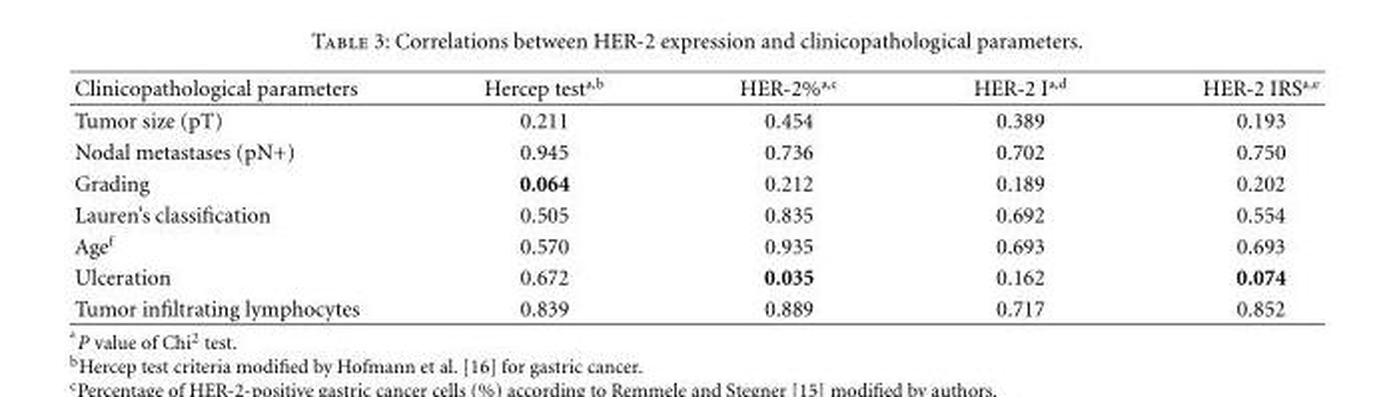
<table><thead><tr><td>Clinicopathological parameters</td><td>Hercep test<sup>a,b</sup></td><td>HER-2%<sup>a,c</sup></td><td>HER-2 I<sup>a,d</sup></td><td>HER-2 IRS<sup>a,e</sup></td></tr></thead><tbody><tr><td>Tumor size (pT)</td><td>0.211</td><td>0.454</td><td>0.389</td><td>0.193</td></tr><tr><td>Nodal metastases (pN+)</td><td>0.945</td><td>0.736</td><td>0.702</td><td>0.750</td></tr><tr><td>Grading</td><td>0.064</td><td>0.212</td><td>0.189</td><td>0.202</td></tr><tr><td>Lauren’s classification</td><td>0.505</td><td>0.835</td><td>0.692</td><td>0.554</td></tr><tr><td>Age<sup>f</sup></td><td>0.570</td><td>0.935</td><td>0.693</td><td>0.693</td></tr><tr><td>Ulceration</td><td>0.672</td><td>0.035</td><td>0.162</td><td>0.074</td></tr><tr><td>Tumor infiltrating lymphocytes</td><td>0.839</td><td>0.889</td><td>0.717</td><td>0.852</td></tr></tbody></table>